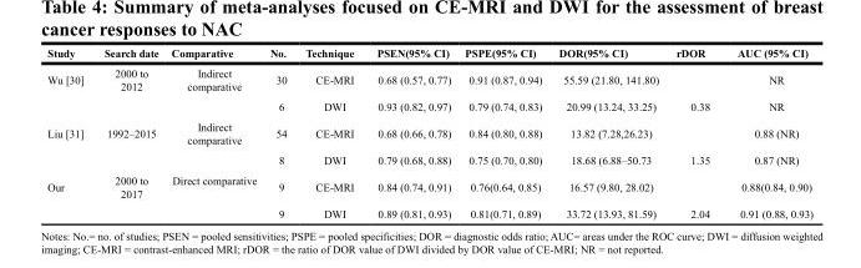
<table><thead><tr><td>Study</td><td>Search date</td><td>Comparative</td><td>No.</td><td>Technique</td><td>PSEN(95% CI)</td><td>PSPE(95% CI)</td><td>DOR(95% CI)</td><td>rDOR</td><td>AUC (95% CI)</td></tr></thead><tbody><tr><td rowspan="2">Wu [30]</td><td>2000 to 2012</td><td>Indirect comparative</td><td>30</td><td>CE-MRI</td><td>0.68 (0.57, 0.77)</td><td>0.91 (0.87, 0.94)</td><td>55.59 (21.80, 141.80)</td><td></td><td>NR</td></tr><tr><td></td><td></td><td>6</td><td>DWI</td><td>0.93 (0.82, 0.97)</td><td>0.79 (0.74, 0.83)</td><td>20.99 (13.24, 33.25)</td><td>0.38</td><td>NR</td></tr><tr><td rowspan="2">Liu [31]</td><td>1992–2015</td><td>Indirect comparative</td><td>54</td><td>CE-MRI</td><td>0.68 (0.66, 0.78)</td><td>0.84 (0.80, 0.88)</td><td>13.82 (7.28,26.23)</td><td></td><td>0.88 (NR)</td></tr><tr><td></td><td></td><td>8</td><td>DWI</td><td>0.79 (0.68, 0.88)</td><td>0.75 (0.70, 0.80)</td><td>18.68 (6.88–50.73</td><td>1.35</td><td>0.87 (NR)</td></tr><tr><td rowspan="2">Our</td><td>2000 to 2017</td><td>Direct comparative</td><td>9</td><td>CE-MRI</td><td>0.84 (0.74, 0.91)</td><td>0.76(0.64, 0.85)</td><td>16.57 (9.80, 28.02)</td><td></td><td>0.88(0.84, 0.90)</td></tr><tr><td></td><td></td><td>9</td><td>DWI</td><td>0.89 (0.81, 0.93)</td><td>0.81(0.71, 0.89)</td><td>33.72 (13.93, 81.59)</td><td>2.04</td><td>0.91 (0.88, 0.93)</td></tr></tbody></table>